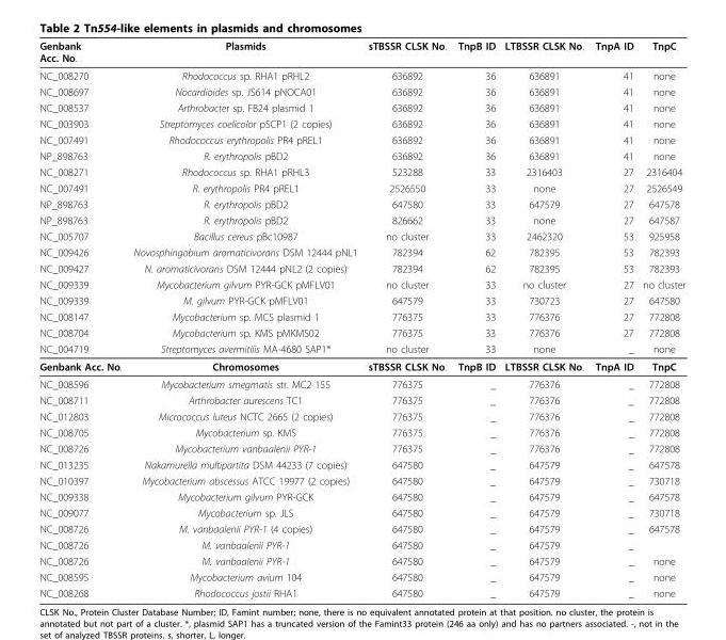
<table><thead><tr><td>Genbank Acc. No.</td><td>Plasmids</td><td>sTBSSR CLSK No.</td><td>TnpB ID</td><td>LTBSSR CLSK No.</td><td>TnpA ID</td><td>TnpC</td></tr></thead><tbody><tr><td>NC_008270</td><td>Rhodococcus sp. RHA1 pRHL2</td><td>636892</td><td>36</td><td>636891</td><td>41</td><td>none</td></tr><tr><td>NC_008697</td><td>Nocardioides sp. JS614 pNOCA01</td><td>636892</td><td>36</td><td>636891</td><td>41</td><td>none</td></tr><tr><td>NC_008537</td><td>Arthrobacter sp. FB24 plasmid 1</td><td>636892</td><td>36</td><td>636891</td><td>41</td><td>none</td></tr><tr><td>NC_003903</td><td>Streptomyces coelicolor pSCP1 (2 copies)</td><td>636892</td><td>36</td><td>636891</td><td>41</td><td>none</td></tr><tr><td>NC_007491</td><td>Rhodococcus erythropolis PR4 pREL1</td><td>636892</td><td>36</td><td>636891</td><td>41</td><td>none</td></tr><tr><td>NP_898763</td><td>R. erythropolis pBD2</td><td>636892</td><td>36</td><td>636891</td><td>41</td><td>none</td></tr><tr><td>NC_008271</td><td>Rhodococcus sp. RHA1 pRHL3</td><td>523288</td><td>33</td><td>2316403</td><td>27</td><td>2316404</td></tr><tr><td>NC_007491</td><td>R. erythropolis PR4 pREL1</td><td>2526550</td><td>33</td><td>none</td><td>27</td><td>2526549</td></tr><tr><td>NP_898763</td><td>R. erythropolis pBD2</td><td>647580</td><td>33</td><td>647579</td><td>27</td><td>647578</td></tr><tr><td>NP_898763</td><td>R. erythropolis pBD2</td><td>826662</td><td>33</td><td>none</td><td>27</td><td>647587</td></tr><tr><td>NC_005707</td><td>Bacillus cereus pBc10987</td><td>no cluster</td><td>33</td><td>2462320</td><td>53</td><td>925958</td></tr><tr><td>NC_009426</td><td>Novosphingobium aromaticivorans DSM 12444 pNL1</td><td>782394</td><td>62</td><td>782395</td><td>53</td><td>782393</td></tr><tr><td>NC_009427</td><td>N. aromaticivorans DSM 12444 pNL2 (2 copies)</td><td>782394</td><td>62</td><td>782395</td><td>53</td><td>782393</td></tr><tr><td>NC_009339</td><td>Mycobacterium gilvum PYR-GCK pMFLV01</td><td>no cluster</td><td>33</td><td>no cluster</td><td>27</td><td>no cluster</td></tr><tr><td>NC_009339</td><td>M. gilvum PYR-GCK pMFLV01</td><td>647579</td><td>33</td><td>730723</td><td>27</td><td>647580</td></tr><tr><td>NC_008147</td><td>Mycobacterium sp. MCS plasmid 1</td><td>776375</td><td>33</td><td>776376</td><td>27</td><td>772808</td></tr><tr><td>NC_008704</td><td>Mycobacterium sp. KMS pMKMS02</td><td>776375</td><td>33</td><td>776376</td><td>27</td><td>772808</td></tr><tr><td>NC_004719</td><td>Streptomyces avermitilis MA-4680 SAP1*</td><td>no cluster</td><td>33</td><td>none</td><td>_</td><td>none</td></tr><tr><td>Genbank Acc. No.</td><td>Chromosomes</td><td>sTBSSR CLSK No.</td><td>TnpB ID</td><td>LTBSSR CLSK No.</td><td>TnpA ID</td><td>TnpC</td></tr><tr><td>NC_008596</td><td>Mycobacterium smegmatis str. MC2 155</td><td>776375</td><td>_</td><td>776376</td><td>_</td><td>772808</td></tr><tr><td>NC_008711</td><td>Arthrobacter aurescens TC1</td><td>776375</td><td>_</td><td>776376</td><td>_</td><td>772808</td></tr><tr><td>NC_012803</td><td>Micrococcus luteus NCTC 2665 (2 copies)</td><td>776375</td><td>_</td><td>776376</td><td>_</td><td>772808</td></tr><tr><td>NC_008705</td><td>Mycobacterium sp. KMS</td><td>776375</td><td>_</td><td>776376</td><td>_</td><td>772808</td></tr><tr><td>NC_008726</td><td>Mycobacterium vanbaalenii PYR-1</td><td>776375</td><td>_</td><td>776376</td><td>_</td><td>772808</td></tr><tr><td>NC_013235</td><td>Nakamurella multipartita DSM 44233 (7 copies)</td><td>647580</td><td>_</td><td>647579</td><td>_</td><td>647578</td></tr><tr><td>NC_010397</td><td>Mycobacterium abscessus ATCC 19977 (2 copies)</td><td>647580</td><td>_</td><td>647579</td><td>_</td><td>730718</td></tr><tr><td>NC_009338</td><td>Mycobacterium gilvum PYR-GCK</td><td>647580</td><td>_</td><td>647579</td><td>_</td><td>647578</td></tr><tr><td>NC_009077</td><td>Mycobacterium sp. JLS</td><td>647580</td><td>_</td><td>647579</td><td>_</td><td>730718</td></tr><tr><td>NC_008726</td><td>M. vanbaalenii PYR-1 (4 copies)</td><td>647580</td><td>_</td><td>647579</td><td>_</td><td>647578</td></tr><tr><td>NC_008726</td><td>M. vanbaalenii PYR-1</td><td>647580</td><td>_</td><td>647579</td><td>_</td><td></td></tr><tr><td>NC_008726</td><td>M. vanbaalenii PYR-1</td><td>647580</td><td>_</td><td>647579</td><td>_</td><td>none</td></tr><tr><td>NC_008595</td><td>Mycobacterium avium 104</td><td>647580</td><td>_</td><td>647579</td><td>_</td><td>none</td></tr><tr><td>NC_008268</td><td>Rhodococcus jostii RHA1</td><td>647580</td><td>_</td><td>647579</td><td>_</td><td>none</td></tr></tbody></table>